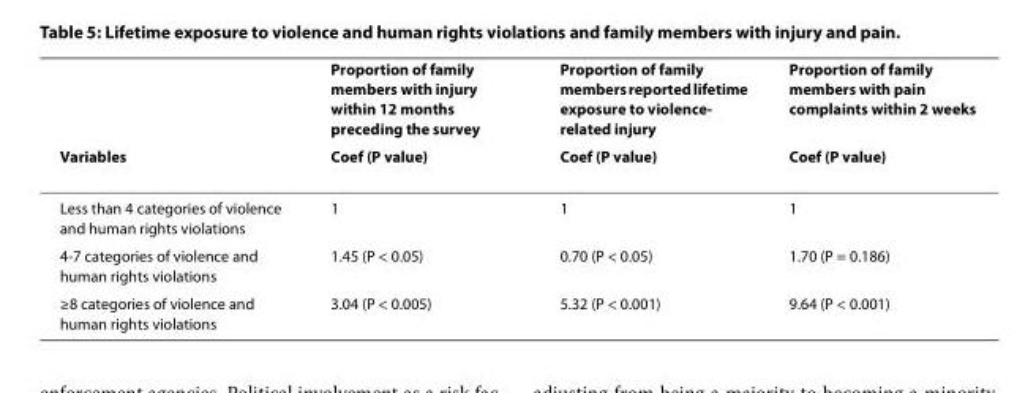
<table><thead><tr><td rowspan="2">Variables</td><td rowspan="2">Proportion of family members with injury within 12 months preceding the survey Coef (P value)</td><td rowspan="2">Proportion of family members reported lifetime exposure to violence- related injury Coef (P value)</td><td rowspan="2">Proportion of family members with pain complaints within 2 weeks Coef (P value)</td></tr><tr></tr></thead><tbody><tr><td>Less than 4 categories of violence and human rights violations</td><td>1</td><td>1</td><td>1</td></tr><tr><td>4-7 categories of violence and human rights violations</td><td>1.45 (P &lt; 0.05)</td><td>0.70 (P &lt; 0.05)</td><td>1.70 (P = 0.186)</td></tr><tr><td>≥8 categories of violence and human rights violations</td><td>3.04 (P &lt; 0.005)</td><td>5.32 (P &lt; 0.001)</td><td>9.64 (P &lt; 0.001)</td></tr></tbody></table>